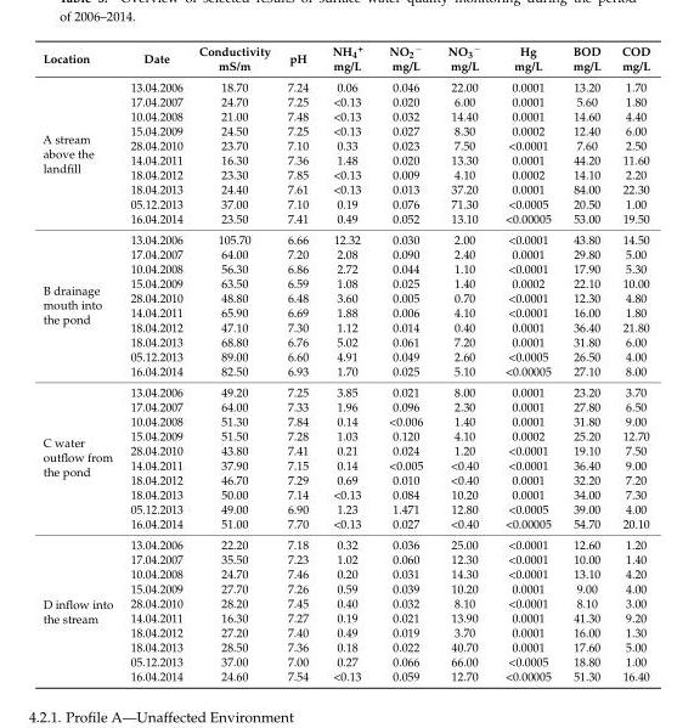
<table><thead><tr><td>Location</td><td>Date</td><td>Conductivity mS/m</td><td>pH</td><td>NH<sub>4</sub><sup>+</sup> mg/L</td><td>NO<sub>2</sub><sup>−</sup> mg/L</td><td>NO<sub>3</sub><sup>−</sup> mg/L</td><td>Hg mg/L</td><td>BOD mg/L</td><td>COD mg/L</td></tr></thead><tbody><tr><td rowspan="10">A stream above the landfill</td><td>13.04.2006</td><td>18.70</td><td>7.24</td><td>0.06</td><td>0.046</td><td>22.00</td><td>0.0001</td><td>13.20</td><td>1.70</td></tr><tr><td>17.04.2007</td><td>24.70</td><td>7.25</td><td>&lt;0.13</td><td>0.020</td><td>6.00</td><td>0.0001</td><td>5.60</td><td>1.80</td></tr><tr><td>10.04.2008</td><td>21.00</td><td>7.48</td><td>&lt;0.13</td><td>0.032</td><td>14.40</td><td>0.0001</td><td>14.60</td><td>4.40</td></tr><tr><td>15.04.2009</td><td>24.50</td><td>7.25</td><td>&lt;0.13</td><td>0.027</td><td>8.30</td><td>0.0002</td><td>12.40</td><td>6.00</td></tr><tr><td>28.04.2010</td><td>23.70</td><td>7.10</td><td>0.33</td><td>0.023</td><td>7.50</td><td>&lt;0.0001</td><td>7.60</td><td>2.50</td></tr><tr><td>14.04.2011</td><td>16.30</td><td>7.36</td><td>1.48</td><td>0.020</td><td>13.30</td><td>0.0001</td><td>44.20</td><td>11.60</td></tr><tr><td>18.04.2012</td><td>23.30</td><td>7.85</td><td>&lt;0.13</td><td>0.009</td><td>4.10</td><td>0.0002</td><td>14.10</td><td>2.20</td></tr><tr><td>18.04.2013</td><td>24.40</td><td>7.61</td><td>&lt;0.13</td><td>0.013</td><td>37.20</td><td>0.0001</td><td>84.00</td><td>22.30</td></tr><tr><td>05.12.2013</td><td>37.00</td><td>7.10</td><td>0.19</td><td>0.076</td><td>71.30</td><td>&lt;0.0005</td><td>20.50</td><td>1.00</td></tr><tr><td>16.04.2014</td><td>23.50</td><td>7.41</td><td>0.49</td><td>0.052</td><td>13.10</td><td>&lt;0.00005</td><td>53.00</td><td>19.50</td></tr><tr><td rowspan="10">B drainage mouth into the pond</td><td>13.04.2006</td><td>105.70</td><td>6.66</td><td>12.32</td><td>0.030</td><td>2.00</td><td>&lt;0.0001</td><td>43.80</td><td>14.50</td></tr><tr><td>17.04.2007</td><td>64.00</td><td>7.20</td><td>2.08</td><td>0.090</td><td>2.40</td><td>0.0001</td><td>29.80</td><td>5.00</td></tr><tr><td>10.04.2008</td><td>56.30</td><td>6.86</td><td>2.72</td><td>0.044</td><td>1.10</td><td>&lt;0.0001</td><td>17.90</td><td>5.30</td></tr><tr><td>15.04.2009</td><td>63.50</td><td>6.59</td><td>1.08</td><td>0.025</td><td>1.40</td><td>0.0002</td><td>22.10</td><td>10.00</td></tr><tr><td>28.04.2010</td><td>48.80</td><td>6.48</td><td>3.60</td><td>0.005</td><td>0.70</td><td>&lt;0.0001</td><td>12.30</td><td>4.80</td></tr><tr><td>14.04.2011</td><td>65.90</td><td>6.69</td><td>1.88</td><td>0.006</td><td>4.10</td><td>&lt;0.0001</td><td>16.00</td><td>1.80</td></tr><tr><td>18.04.2012</td><td>47.10</td><td>7.30</td><td>1.12</td><td>0.014</td><td>0.40</td><td>0.0001</td><td>36.40</td><td>21.80</td></tr><tr><td>18.04.2013</td><td>68.80</td><td>6.76</td><td>5.02</td><td>0.061</td><td>7.20</td><td>0.0001</td><td>31.80</td><td>6.00</td></tr><tr><td>05.12.2013</td><td>89.00</td><td>6.60</td><td>4.91</td><td>0.049</td><td>2.60</td><td>&lt;0.0005</td><td>26.50</td><td>4.00</td></tr><tr><td>16.04.2014</td><td>82.50</td><td>6.93</td><td>1.70</td><td>0.025</td><td>5.10</td><td>&lt;0.00005</td><td>27.10</td><td>8.00</td></tr><tr><td rowspan="10">C water outflow from the pond</td><td>13.04.2006</td><td>49.20</td><td>7.25</td><td>3.85</td><td>0.021</td><td>8.00</td><td>0.0001</td><td>23.20</td><td>3.70</td></tr><tr><td>17.04.2007</td><td>64.00</td><td>7.33</td><td>1.96</td><td>0.096</td><td>2.30</td><td>0.0001</td><td>27.80</td><td>6.50</td></tr><tr><td>10.04.2008</td><td>51.30</td><td>7.84</td><td>0.14</td><td>&lt;0.006</td><td>1.40</td><td>0.0001</td><td>31.80</td><td>9.00</td></tr><tr><td>15.04.2009</td><td>51.50</td><td>7.28</td><td>1.03</td><td>0.120</td><td>4.10</td><td>0.0002</td><td>25.20</td><td>12.70</td></tr><tr><td>28.04.2010</td><td>43.80</td><td>7.41</td><td>0.21</td><td>0.024</td><td>1.20</td><td>&lt;0.0001</td><td>19.10</td><td>7.50</td></tr><tr><td>14.04.2011</td><td>37.90</td><td>7.15</td><td>0.14</td><td>&lt;0.005</td><td>&lt;0.40</td><td>&lt;0.0001</td><td>36.40</td><td>9.00</td></tr><tr><td>18.04.2012</td><td>46.70</td><td>7.29</td><td>0.69</td><td>0.010</td><td>&lt;0.40</td><td>0.0001</td><td>32.20</td><td>7.20</td></tr><tr><td>18.04.2013</td><td>50.00</td><td>7.14</td><td>&lt;0.13</td><td>0.084</td><td>10.20</td><td>0.0001</td><td>34.00</td><td>7.30</td></tr><tr><td>05.12.2013</td><td>49.00</td><td>6.90</td><td>1.23</td><td>1.471</td><td>12.80</td><td>&lt;0.0005</td><td>39.00</td><td>4.00</td></tr><tr><td>16.04.2014</td><td>51.00</td><td>7.70</td><td>&lt;0.13</td><td>0.027</td><td>&lt;0.40</td><td>&lt;0.00005</td><td>54.70</td><td>20.10</td></tr><tr><td rowspan="10">D inflow into the stream</td><td>13.04.2006</td><td>22.20</td><td>7.18</td><td>0.32</td><td>0.036</td><td>25.00</td><td>&lt;0.0001</td><td>12.60</td><td>1.20</td></tr><tr><td>17.04.2007</td><td>35.50</td><td>7.23</td><td>1.02</td><td>0.060</td><td>12.30</td><td>&lt;0.0001</td><td>10.00</td><td>1.40</td></tr><tr><td>10.04.2008</td><td>24.70</td><td>7.46</td><td>0.20</td><td>0.031</td><td>14.30</td><td>&lt;0.0001</td><td>13.10</td><td>4.20</td></tr><tr><td>15.04.2009</td><td>27.70</td><td>7.26</td><td>0.59</td><td>0.039</td><td>10.20</td><td>0.0001</td><td>9.00</td><td>4.00</td></tr><tr><td>28.04.2010</td><td>28.20</td><td>7.45</td><td>0.40</td><td>0.032</td><td>8.10</td><td>&lt;0.0001</td><td>8.10</td><td>3.00</td></tr><tr><td>14.04.2011</td><td>16.30</td><td>7.27</td><td>0.19</td><td>0.021</td><td>13.90</td><td>0.0001</td><td>41.30</td><td>9.20</td></tr><tr><td>18.04.2012</td><td>27.20</td><td>7.40</td><td>0.49</td><td>0.019</td><td>3.70</td><td>0.0001</td><td>16.00</td><td>1.30</td></tr><tr><td>18.04.2013</td><td>28.50</td><td>7.36</td><td>0.18</td><td>0.022</td><td>40.70</td><td>0.0001</td><td>17.60</td><td>5.00</td></tr><tr><td>05.12.2013</td><td>37.00</td><td>7.00</td><td>0.27</td><td>0.066</td><td>66.00</td><td>&lt;0.0005</td><td>18.80</td><td>1.00</td></tr><tr><td>16.04.2014</td><td>24.60</td><td>7.54</td><td>&lt;0.13</td><td>0.059</td><td>12.70</td><td>&lt;0.00005</td><td>51.30</td><td>16.40</td></tr></tbody></table>